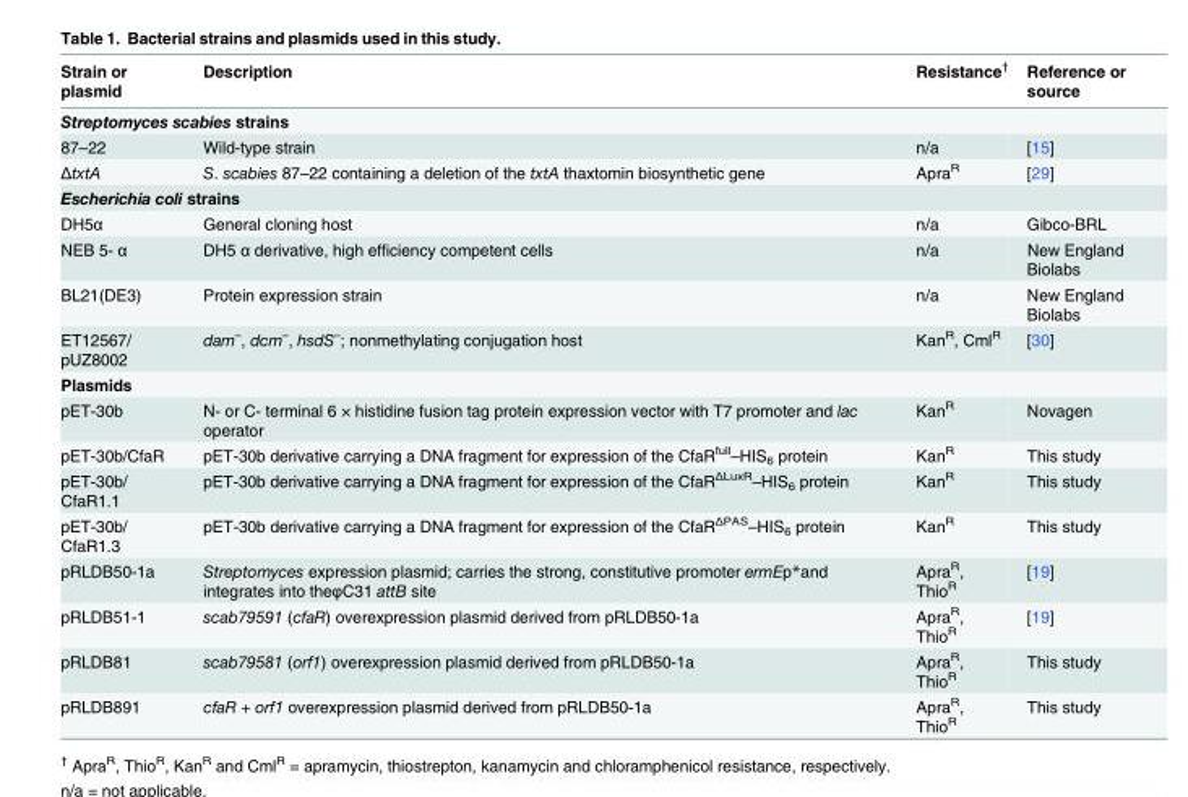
<table><thead><tr><td>Strain or plasmid</td><td>Description</td><td>Resistance<sup>†</sup></td><td>Reference or source</td></tr></thead><tbody><tr><td colspan="4">Streptomyces scabies strains</td></tr><tr><td>87–22</td><td>Wild-type strain</td><td>n/a</td><td>[15]</td></tr><tr><td>ΔtxtA</td><td>S. scabies 87–22 containing a deletion of the txtA thaxtomin biosynthetic gene</td><td>Apra<sup>R</sup></td><td>[29]</td></tr><tr><td colspan="4">Escherichia coli strains</td></tr><tr><td>DH5α</td><td>General cloning host</td><td>n/a</td><td>Gibco-BRL</td></tr><tr><td>NEB 5- α</td><td>DH5 α derivative, high efficiency competent cells</td><td>n/a</td><td>New England Biolabs</td></tr><tr><td>BL21(DE3)</td><td>Protein expression strain</td><td>n/a</td><td>New England Biolabs</td></tr><tr><td>ET12567/ pUZ8002</td><td>dam<sup>–</sup>, dcm<sup>–</sup>, hsdS<sup>–</sup>; nonmethylating conjugation host</td><td>Kan<sup>R</sup>, Cml<sup>R</sup></td><td>[30]</td></tr><tr><td colspan="4">Plasmids</td></tr><tr><td>pET-30b</td><td>N- or C- terminal 6 × histidine fusion tag protein expression vector with T7 promoter and lac operator</td><td>Kan<sup>R</sup></td><td>Novagen</td></tr><tr><td>pET-30b/CfaR</td><td>pET-30b derivative carrying a DNA fragment for expression of the CfaR<sup>full</sup>–HIS<sub>6</sub> protein</td><td>Kan<sup>R</sup></td><td>This study</td></tr><tr><td>pET-30b/ CfaR1.1</td><td>pET-30b derivative carrying a DNA fragment for expression of the CfaR<sup>ΔLuxR</sup>–HIS<sub>6</sub> protein</td><td>Kan<sup>R</sup></td><td>This study</td></tr><tr><td>pET-30b/ CfaR1.3</td><td>pET-30b derivative carrying a DNA fragment for expression of the CfaR<sup>ΔPAS</sup>–HIS<sub>6</sub> protein</td><td>Kan<sup>R</sup></td><td>This study</td></tr><tr><td>pRLDB50-1a</td><td>Streptomyces expression plasmid; carries the strong, constitutive promoter ermEp*and integrates into theφC31 attB site</td><td>Apra<sup>R</sup>, Thio<sup>R</sup></td><td>[19]</td></tr><tr><td>pRLDB51-1</td><td>scab79591 (cfaR) overexpression plasmid derived from pRLDB50-1a</td><td>Apra<sup>R</sup>, Thio<sup>R</sup></td><td>[19]</td></tr><tr><td>pRLDB81</td><td>scab79581 (orf1) overexpression plasmid derived from pRLDB50-1a</td><td>Apra<sup>R</sup>, Thio<sup>R</sup></td><td>This study</td></tr><tr><td>pRLDB891</td><td>cfaR + orf1 overexpression plasmid derived from pRLDB50-1a</td><td>Apra<sup>R</sup>, Thio<sup>R</sup></td><td>This study</td></tr></tbody></table>